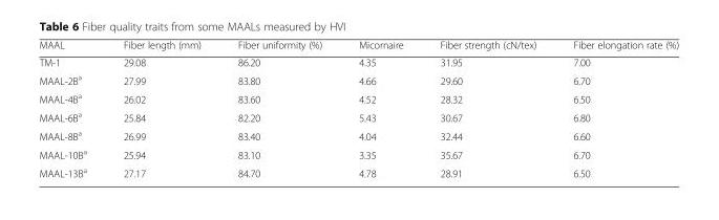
<table><thead><tr><td>MAAL</td><td>Fiber length (mm)</td><td>Fiber uniformity (%)</td><td>Micornaire</td><td>Fiber strength (cN/tex)</td><td>Fiber elongation rate (%)</td></tr></thead><tbody><tr><td>TM-1</td><td>29.08</td><td>86.20</td><td>4.35</td><td>31.95</td><td>7.00</td></tr><tr><td>MAAL-2B<sup>a</sup></td><td>27.99</td><td>83.80</td><td>4.66</td><td>29.60</td><td>6.70</td></tr><tr><td>MAAL-4B<sup>a</sup></td><td>26.02</td><td>83.60</td><td>4.52</td><td>28.32</td><td>6.50</td></tr><tr><td>MAAL-6B<sup>a</sup></td><td>25.84</td><td>82.20</td><td>5.43</td><td>30.67</td><td>6.80</td></tr><tr><td>MAAL-8B<sup>a</sup></td><td>26.99</td><td>83.40</td><td>4.04</td><td>32.44</td><td>6.60</td></tr><tr><td>MAAL-10B<sup>a</sup></td><td>25.94</td><td>83.10</td><td>3.35</td><td>35.67</td><td>6.70</td></tr><tr><td>MAAL-13B<sup>a</sup></td><td>27.17</td><td>84.70</td><td>4.78</td><td>28.91</td><td>6.50</td></tr></tbody></table>